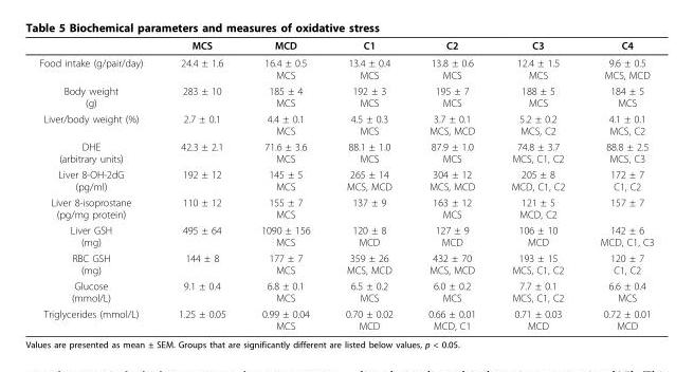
<table><thead><tr><td></td><td>MCS</td><td>MCD</td><td>C1</td><td>C2</td><td>C3</td><td>C4</td></tr></thead><tbody><tr><td>Food intake (g/pair/day)</td><td>24.4 ± 1.6</td><td>16.4 ± 0.5 MCS</td><td>13.4 ± 0.4 MCS</td><td>13.8 ± 0.6 MCS</td><td>12.4 ± 1.5 MCS</td><td>9.6 ± 0.5 MCS, MCD</td></tr><tr><td>Body weight (g)</td><td>283 ± 10</td><td>185 ± 4 MCS</td><td>192 ± 3 MCS</td><td>195 ± 7 MCS</td><td>188 ± 5 MCS</td><td>184 ± 5 MCS</td></tr><tr><td>Liver/body weight (%)</td><td>2.7 ± 0.1</td><td>4.4 ± 0.1 MCS</td><td>4.5 ± 0.3 MCS</td><td>3.7 ± 0.1 MCS, MCD</td><td>5.2 ± 0.2 MCS, C2</td><td>4.1 ± 0.1 MCS, C2</td></tr><tr><td>DHE (arbitrary units)</td><td>42.3 ± 2.1</td><td>71.6 ± 3.6 MCS</td><td>88.1 ± 1.0 MCS</td><td>87.9 ± 1.0 MCS</td><td>74.8 ± 3.7 MCS, C1, C2</td><td>88.8 ± 2.5 MCS, C3</td></tr><tr><td>Liver 8-OH-2dG (pg/ml)</td><td>192 ± 12</td><td>145 ± 5 MCS</td><td>265 ± 14 MCS, MCD</td><td>304 ± 12 MCS, MCD</td><td>205 ± 8 MCD, C1, C2</td><td>172 ± 7 C1, C2</td></tr><tr><td>Liver 8-isoprostane (pg/mg protein)</td><td>110 ± 12</td><td>155 ± 7 MCS</td><td>137 ± 9</td><td>163 ± 12 MCS</td><td>121 ± 5 MCD, C2</td><td>157 ± 7</td></tr><tr><td>Liver GSH (mg)</td><td>495 ± 64</td><td>1090 ± 156 MCS</td><td>120 ± 8 MCD</td><td>127 ± 9 MCD</td><td>106 ± 10 MCD</td><td>142 ± 6 MCD, C1, C3</td></tr><tr><td>RBC GSH (mg)</td><td>144 ± 8</td><td>177 ± 7 MCS</td><td>359 ± 26 MCS, MCD</td><td>432 ± 70 MCS, MCD</td><td>193 ± 15 MCS, C1, C2</td><td>120 ± 7 C1, C2</td></tr><tr><td>Glucose (mmol/L)</td><td>9.1 ± 0.4</td><td>6.8 ± 0.1 MCS</td><td>6.5 ± 0.2 MCS</td><td>6.0 ± 0.2 MCS</td><td>7.7 ± 0.1 MCS, C1, C2</td><td>6.6 ± 0.4 MCS</td></tr><tr><td>Triglycerides (mmol/L)</td><td>1.25 ± 0.05</td><td>0.99 ± 0.04 MCS</td><td>0.70 ± 0.02 MCD</td><td>0.66 ± 0.01 MCD, C1</td><td>0.71 ± 0.03 MCD</td><td>0.72 ± 0.01 MCD</td></tr></tbody></table>